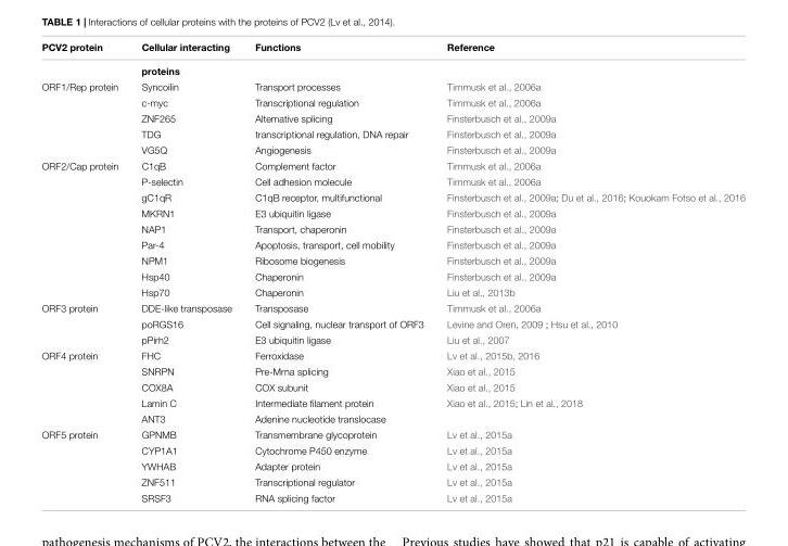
<table><thead><tr><td>PCV2 protein</td><td>Cellular interacting</td><td>Functions</td><td>Reference</td></tr></thead><tbody><tr><td></td><td>proteins</td><td></td><td></td></tr><tr><td rowspan="5">ORF1/Rep protein</td><td>Syncoilin</td><td>Transport processes</td><td>Timmusk et al., 2006a</td></tr><tr><td>c-myc</td><td>Transcriptional regulation</td><td>Timmusk et al., 2006a</td></tr><tr><td>ZNF265</td><td>Altemative splicing</td><td>Finsterbusch et al., 2009a</td></tr><tr><td>TDG</td><td>transcriptional regulation, DNA repair</td><td>Finsterbusch et al., 2009a</td></tr><tr><td>VG5Q</td><td>Angiogenesis</td><td>Finsterbusch et al., 2009a</td></tr><tr><td rowspan="9">ORF2/Cap protein</td><td>C1qB</td><td>Complement factor</td><td>Timmusk et al., 2006a</td></tr><tr><td>P-selectin</td><td>Cell adhesion molecule</td><td>Timmusk et al., 2006a</td></tr><tr><td>gC1qR</td><td>C1qB receptor, multifunctional</td><td>Finsterbusch et al., 2009a; Du et al., 2016; Kouokam Fotso et al., 2016</td></tr><tr><td>MKRN1</td><td>E3 ubiquitin ligase</td><td>Finsterbusch et al., 2009a</td></tr><tr><td>NAP1</td><td>Transport, chaperonin</td><td>Finsterbusch et al., 2009a</td></tr><tr><td>Par-4</td><td>Apoptosis, transport, cell mobility</td><td>Finsterbusch et al., 2009a</td></tr><tr><td>NPM1</td><td>Ribosome biogenesis</td><td>Finsterbusch et al., 2009a</td></tr><tr><td>Hsp40</td><td>Chaperonin</td><td>Finsterbusch et al., 2009a</td></tr><tr><td>Hsp70</td><td>Chaperonin</td><td>Liu et al., 2013b</td></tr><tr><td rowspan="3">ORF3 protein</td><td>DDE-like transposase</td><td>Transposase</td><td>Timmusk et al., 2006a</td></tr><tr><td>poRGS16</td><td>Cell signaling, nuclear transport of ORF3</td><td>Levine and Oren, 2009 ; Hsu et al., 2010</td></tr><tr><td>pPirh2</td><td>E3 ubiquitin ligase</td><td>Liu et al., 2007</td></tr><tr><td rowspan="5">ORF4 protein</td><td>FHC</td><td>Ferroxidase</td><td>Lv et al., 2015b, 2016</td></tr><tr><td>SNRPN</td><td>Pre-Mrna splicing</td><td>Xiao et al., 2015</td></tr><tr><td>COX8A</td><td>COX subunit</td><td>Xiao et al., 2015</td></tr><tr><td>Lamin C</td><td>Intermediate filament protein</td><td>Xiao et al., 2015; Lin et al., 2018</td></tr><tr><td>ANT3</td><td>Adenine nucleotide translocase</td><td></td></tr><tr><td rowspan="5">ORF5 protein</td><td>GPNMB</td><td>Transmembrane glycoprotein</td><td>Lv et al., 2015a</td></tr><tr><td>CYP1A1</td><td>Cytochrome P450 enzyme</td><td>Lv et al., 2015a</td></tr><tr><td>YWHAB</td><td>Adapter protein</td><td>Lv et al., 2015a</td></tr><tr><td>ZNF511</td><td>Transcriptional regulator</td><td>Lv et al., 2015a</td></tr><tr><td>SRSF3</td><td>RNA splicing factor</td><td>Lv et al., 2015a</td></tr></tbody></table>